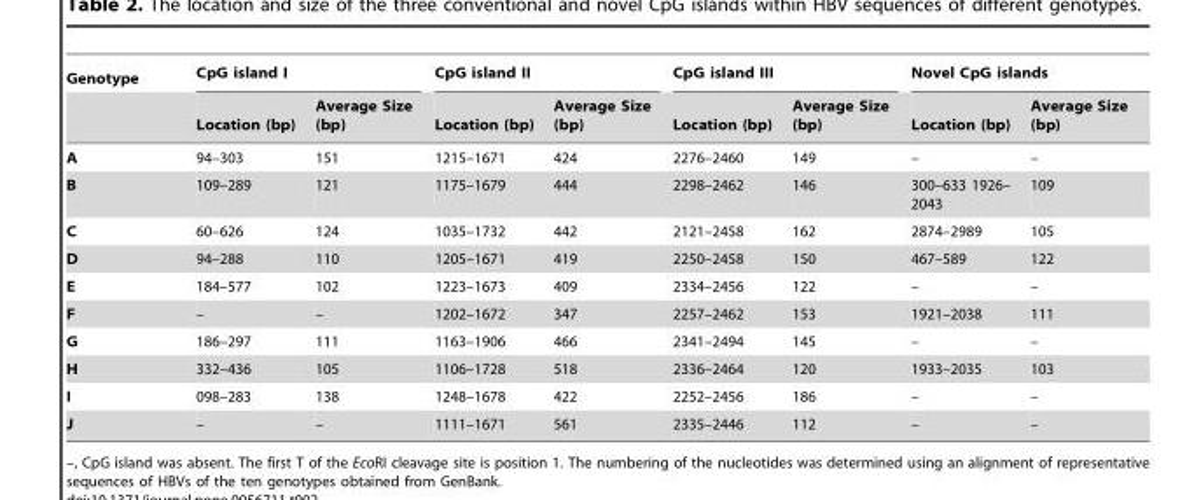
<table><thead><tr><td rowspan="2">Genotype</td><td colspan="2">CpG island I</td><td colspan="2">CpG island II</td><td colspan="2">CpG island III</td><td colspan="2">Novel CpG islands</td></tr><tr><td>Location (bp)</td><td>Average Size (bp)</td><td>Location (bp)</td><td>Average Size (bp)</td><td>Location (bp)</td><td>Average Size (bp)</td><td>Location (bp)</td><td>Average Size (bp)</td></tr></thead><tbody><tr><td>A</td><td>94–303</td><td>151</td><td>1215–1671</td><td>424</td><td>2276–2460</td><td>149</td><td>–</td><td>–</td></tr><tr><td>B</td><td>109–289</td><td>121</td><td>1175–1679</td><td>444</td><td>2298–2462</td><td>146</td><td>300–633 1926– 2043</td><td>109</td></tr><tr><td>C</td><td>60–626</td><td>124</td><td>1035–1732</td><td>442</td><td>2121–2458</td><td>162</td><td>2874–2989</td><td>105</td></tr><tr><td>D</td><td>94–288</td><td>110</td><td>1205–1671</td><td>419</td><td>2250–2458</td><td>150</td><td>467–589</td><td>122</td></tr><tr><td>E</td><td>184–577</td><td>102</td><td>1223–1673</td><td>409</td><td>2334–2456</td><td>122</td><td>–</td><td>–</td></tr><tr><td>F</td><td>–</td><td>–</td><td>1202–1672</td><td>347</td><td>2257–2462</td><td>153</td><td>1921–2038</td><td>111</td></tr><tr><td>G</td><td>186–297</td><td>111</td><td>1163–1906</td><td>466</td><td>2341–2494</td><td>145</td><td>–</td><td>–</td></tr><tr><td>H</td><td>332–436</td><td>105</td><td>1106–1728</td><td>518</td><td>2336–2464</td><td>120</td><td>1933–2035</td><td>103</td></tr><tr><td>I</td><td>098–283</td><td>138</td><td>1248–1678</td><td>422</td><td>2252–2456</td><td>186</td><td>–</td><td>–</td></tr><tr><td>J</td><td>–</td><td>–</td><td>1111–1671</td><td>561</td><td>2335–2446</td><td>112</td><td>–</td><td>–</td></tr></tbody></table>